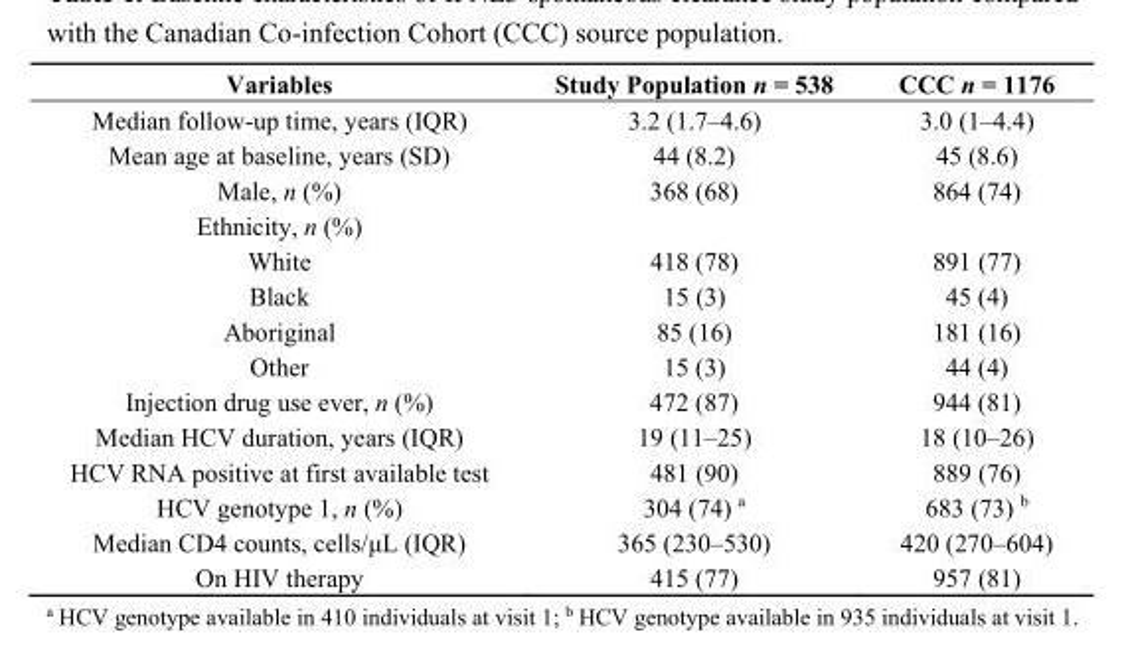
<table><thead><tr><td>Variables</td><td>Study Population n = 538</td><td>CCC n = 1176</td></tr></thead><tbody><tr><td>Median follow-up time, years (IQR)</td><td>3.2 (1.7–4.6)</td><td>3.0 (1–4.4)</td></tr><tr><td>Mean age at baseline, years (SD)</td><td>44 (8.2)</td><td>45 (8.6)</td></tr><tr><td>Male, n (%)</td><td>368 (68)</td><td>864 (74)</td></tr><tr><td colspan="3">Ethnicity, n (%)</td></tr><tr><td>White</td><td>418 (78)</td><td>891 (77)</td></tr><tr><td>Black</td><td>15 (3)</td><td>45 (4)</td></tr><tr><td>Aboriginal</td><td>85 (16)</td><td>181 (16)</td></tr><tr><td>Other</td><td>15 (3)</td><td>44 (4)</td></tr><tr><td>Injection drug use ever, n (%)</td><td>472 (87)</td><td>944 (81)</td></tr><tr><td>Median HCV duration, years (IQR)</td><td>19 (11–25)</td><td>18 (10–26)</td></tr><tr><td>HCV RNA positive at first available test</td><td>481 (90)</td><td>889 (76)</td></tr><tr><td>HCV genotype 1, n (%)</td><td>304 (74) <sup>a</sup></td><td>683 (73) <sup>b</sup></td></tr><tr><td>Median CD4 counts, cells/μL (IQR)</td><td>365 (230–530)</td><td>420 (270–604)</td></tr><tr><td>On HIV therapy</td><td>415 (77)</td><td>957 (81)</td></tr></tbody></table>